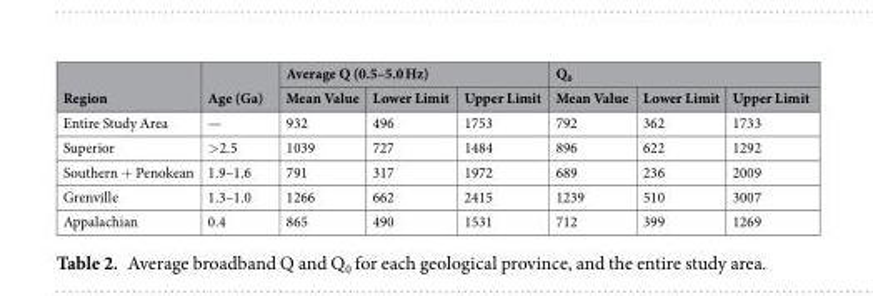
<table><thead><tr><td rowspan="2">Region</td><td rowspan="2">Age (Ga)</td><td colspan="3">Average Q (0.5–5.0 Hz)</td><td colspan="3">Q<sub>0</sub></td></tr><tr><td>Mean Value</td><td>Lower Limit</td><td>Upper Limit</td><td>Mean Value</td><td>Lower Limit</td><td>Upper Limit</td></tr></thead><tbody><tr><td>Entire Study Area</td><td>—</td><td>932</td><td>496</td><td>1753</td><td>792</td><td>362</td><td>1733</td></tr><tr><td>Superior</td><td>&gt;2.5</td><td>1039</td><td>727</td><td>1484</td><td>896</td><td>622</td><td>1292</td></tr><tr><td>Southern + Penokean</td><td>1.9–1.6</td><td>791</td><td>317</td><td>1972</td><td>689</td><td>236</td><td>2009</td></tr><tr><td>Grenville</td><td>1.3–1.0</td><td>1266</td><td>662</td><td>2415</td><td>1239</td><td>510</td><td>3007</td></tr><tr><td>Appalachian</td><td>0.4</td><td>865</td><td>490</td><td>1531</td><td>712</td><td>399</td><td>1269</td></tr></tbody></table>